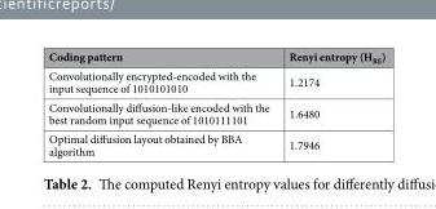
<table><thead><tr><td>Coding pattern</td><td>Renyi entropy (H<sub>RE</sub>)</td></tr></thead><tbody><tr><td>Convolutionally encrypted-encoded with the input sequence of 1010101010</td><td>1.2174</td></tr><tr><td>Convolutionally diffusion-like encoded with the best random input sequence of 1010111101</td><td>1.6480</td></tr><tr><td>Optimal diffusion layout obtained by BBA algorithm</td><td>1.7946</td></tr></tbody></table>